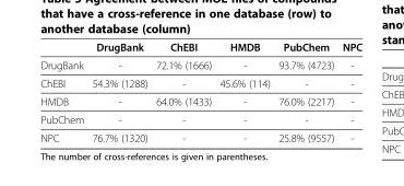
<table><thead><tr><td></td><td>DrugBank</td><td>ChEBI</td><td>HMDB</td><td>PubChem</td><td>NPC</td></tr></thead><tbody><tr><td>DrugBank</td><td>-</td><td>72.1% (1666)</td><td>-</td><td>93.7% (4723)</td><td>-</td></tr><tr><td>ChEBI</td><td>54.3% (1288)</td><td>-</td><td>45.6% (114)</td><td>-</td><td>-</td></tr><tr><td>HMDB</td><td>-</td><td>64.0% (1433)</td><td>-</td><td>76.0% (2217)</td><td>-</td></tr><tr><td>PubChem</td><td>-</td><td>-</td><td>-</td><td>-</td><td>-</td></tr><tr><td>NPC</td><td>76.7% (1320)</td><td>-</td><td>-</td><td>25.8% (9557)</td><td>-</td></tr></tbody></table>